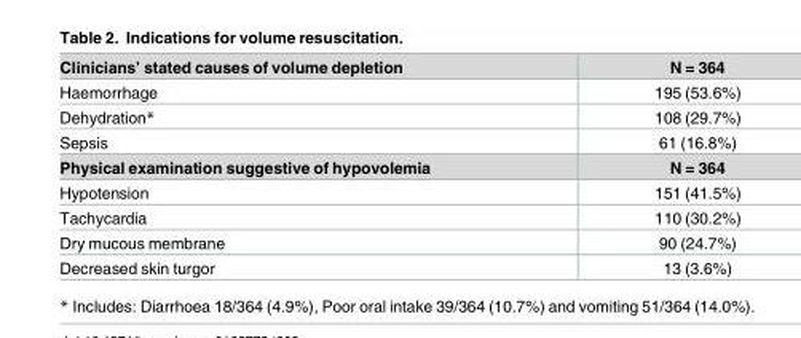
<table><tbody><tr><td>Clinicians’ stated causes of volume depletion</td><td>N = 364</td></tr><tr><td>Haemorrhage</td><td>195 (53.6%)</td></tr><tr><td>Dehydration*</td><td>108 (29.7%)</td></tr><tr><td>Sepsis</td><td>61 (16.8%)</td></tr><tr><td>Physical examination suggestive of hypovolemia</td><td>N = 364</td></tr><tr><td>Hypotension</td><td>151 (41.5%)</td></tr><tr><td>Tachycardia</td><td>110 (30.2%)</td></tr><tr><td>Dry mucous membrane</td><td>90 (24.7%)</td></tr><tr><td>Decreased skin turgor</td><td>13 (3.6%)</td></tr></tbody></table>